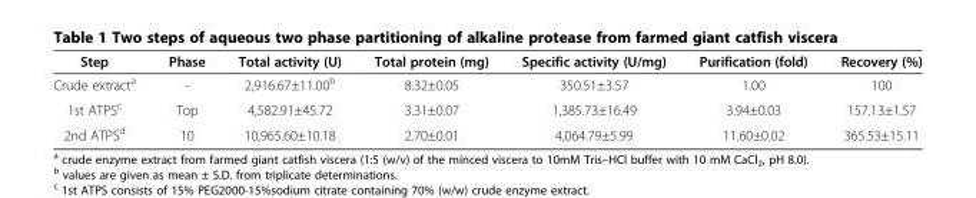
<table><thead><tr><td>Step</td><td>Phase</td><td>Total activity (U)</td><td>Total protein (mg)</td><td>Specific activity (U/mg)</td><td>Purification (fold)</td><td>Recovery (%)</td></tr></thead><tbody><tr><td>Crude extract<sup>a</sup></td><td>-</td><td>2,916.67±11.00<sup>b</sup></td><td>8.32±0.05</td><td>350.51±3.57</td><td>1.00</td><td>100</td></tr><tr><td>1st ATPS<sup>c</sup></td><td>Top</td><td>4,582.91±45.72</td><td>3.31±0.07</td><td>1,385.73±16.49</td><td>3.94±0.03</td><td>157.13±1.57</td></tr><tr><td>2nd ATPS<sup>d</sup></td><td>10</td><td>10,965.60±10.18</td><td>2.70±0.01</td><td>4,064.79±5.99</td><td>11.60±0.02</td><td>365.53±15.11</td></tr></tbody></table>